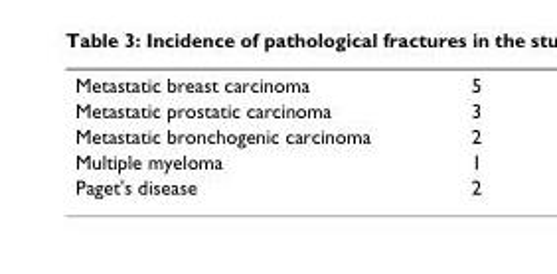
<table><tbody><tr><td>Metastatic breast carcinoma</td><td>5</td></tr><tr><td>Metastatic prostatic carcinoma</td><td>3</td></tr><tr><td>Metastatic bronchogenic carcinoma</td><td>2</td></tr><tr><td>Multiple myeloma</td><td>1</td></tr><tr><td>Paget&#x27;s disease</td><td>2</td></tr></tbody></table>